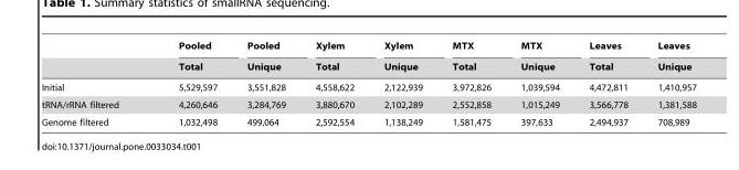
<table><thead><tr><td rowspan="2"></td><td rowspan="2">Pooled Total</td><td rowspan="2">Pooled Unique</td><td rowspan="2">Xylem Total</td><td rowspan="2">Xylem Unique</td><td rowspan="2">MTX Total</td><td rowspan="2">MTX Unique</td><td rowspan="2">Leaves Total</td><td rowspan="2">Leaves Unique</td></tr><tr></tr></thead><tbody><tr><td>Initial</td><td>5,529,597</td><td>3,551,828</td><td>4,558,622</td><td>2,122,939</td><td>3,972,826</td><td>1,039,594</td><td>4,472,811</td><td>1,410,957</td></tr><tr><td>tRNA/rRNA filtered</td><td>4,260,646</td><td>3,284,769</td><td>3,880,670</td><td>2,102,289</td><td>2,552,858</td><td>1,015,249</td><td>3,566,778</td><td>1,381,588</td></tr><tr><td>Genome filtered</td><td>1,032,498</td><td>499,064</td><td>2,592,554</td><td>1,138,249</td><td>1,581,475</td><td>397,633</td><td>2,494,937</td><td>708,989</td></tr></tbody></table>